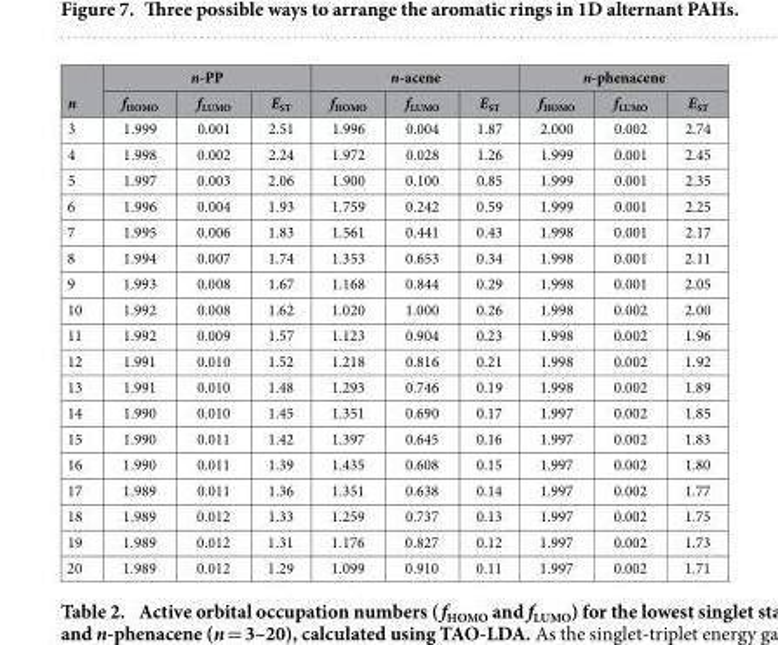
<table><thead><tr><td rowspan="2">n</td><td colspan="3">n-PP</td><td colspan="3">n-acene</td><td colspan="3">n-phenacene</td></tr><tr><td>f<sub>HOMO</sub></td><td>f<sub>LUMO</sub></td><td>E<sub>ST</sub></td><td>f<sub>HOMO</sub></td><td>f<sub>LUMO</sub></td><td>E<sub>ST</sub></td><td>f<sub>HOMO</sub></td><td>f<sub>LUMO</sub></td><td>E<sub>ST</sub></td></tr></thead><tbody><tr><td>3</td><td>1.999</td><td>0.001</td><td>2.51</td><td>1.996</td><td>0.004</td><td>1.87</td><td>2.000</td><td>0.002</td><td>2.74</td></tr><tr><td>4</td><td>1.998</td><td>0.002</td><td>2.24</td><td>1.972</td><td>0.028</td><td>1.26</td><td>1.999</td><td>0.001</td><td>2.45</td></tr><tr><td>5</td><td>1.997</td><td>0.003</td><td>2.06</td><td>1.900</td><td>0.100</td><td>0.85</td><td>1.999</td><td>0.001</td><td>2.35</td></tr><tr><td>6</td><td>1.996</td><td>0.004</td><td>1.93</td><td>1.759</td><td>0.242</td><td>0.59</td><td>1.999</td><td>0.001</td><td>2.25</td></tr><tr><td>7</td><td>1.995</td><td>0.006</td><td>1.83</td><td>1.561</td><td>0.441</td><td>0.43</td><td>1.998</td><td>0.001</td><td>2.17</td></tr><tr><td>8</td><td>1.994</td><td>0.007</td><td>1.74</td><td>1.353</td><td>0.653</td><td>0.34</td><td>1.998</td><td>0.001</td><td>2.11</td></tr><tr><td>9</td><td>1.993</td><td>0.008</td><td>1.67</td><td>1.168</td><td>0.844</td><td>0.29</td><td>1.998</td><td>0.001</td><td>2.05</td></tr><tr><td>10</td><td>1.992</td><td>0.008</td><td>1.62</td><td>1.020</td><td>1.000</td><td>0.26</td><td>1.998</td><td>0.002</td><td>2.00</td></tr><tr><td>11</td><td>1.992</td><td>0.009</td><td>1.57</td><td>1.123</td><td>0.904</td><td>0.23</td><td>1.998</td><td>0.002</td><td>1.96</td></tr><tr><td>12</td><td>1.991</td><td>0.010</td><td>1.52</td><td>1.218</td><td>0.816</td><td>0.21</td><td>1.998</td><td>0.002</td><td>1.92</td></tr><tr><td>13</td><td>1.991</td><td>0.010</td><td>1.48</td><td>1.293</td><td>0.746</td><td>0.19</td><td>1.998</td><td>0.002</td><td>1.89</td></tr><tr><td>14</td><td>1.990</td><td>0.010</td><td>1.45</td><td>1.351</td><td>0.690</td><td>0.17</td><td>1.997</td><td>0.002</td><td>1.85</td></tr><tr><td>15</td><td>1.990</td><td>0.011</td><td>1.42</td><td>1.397</td><td>0.645</td><td>0.16</td><td>1.997</td><td>0.002</td><td>1.83</td></tr><tr><td>16</td><td>1.990</td><td>0.011</td><td>1.39</td><td>1.435</td><td>0.608</td><td>0.15</td><td>1.997</td><td>0.002</td><td>1.80</td></tr><tr><td>17</td><td>1.989</td><td>0.011</td><td>1.36</td><td>1.351</td><td>0.638</td><td>0.14</td><td>1.997</td><td>0.002</td><td>1.77</td></tr><tr><td>18</td><td>1.989</td><td>0.012</td><td>1.33</td><td>1.259</td><td>0.737</td><td>0.13</td><td>1.997</td><td>0.002</td><td>1.75</td></tr><tr><td>19</td><td>1.989</td><td>0.012</td><td>1.31</td><td>1.176</td><td>0.827</td><td>0.12</td><td>1.997</td><td>0.002</td><td>1.73</td></tr><tr><td>20</td><td>1.989</td><td>0.012</td><td>1.29</td><td>1.099</td><td>0.910</td><td>0.11</td><td>1.997</td><td>0.002</td><td>1.71</td></tr></tbody></table>